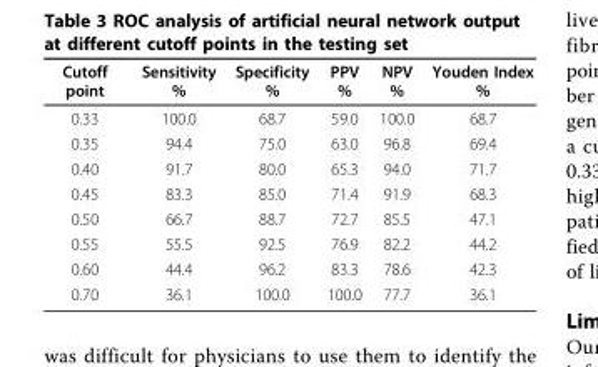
<table><thead><tr><td>Cutoff point</td><td>Sensitivity %</td><td>Specificity %</td><td>PPV %</td><td>NPV %</td><td>Youden Index %</td></tr></thead><tbody><tr><td>0.33</td><td>100.0</td><td>68.7</td><td>59.0</td><td>100.0</td><td>68.7</td></tr><tr><td>0.35</td><td>94.4</td><td>75.0</td><td>63.0</td><td>96.8</td><td>69.4</td></tr><tr><td>0.40</td><td>91.7</td><td>80.0</td><td>65.3</td><td>94.0</td><td>71.7</td></tr><tr><td>0.45</td><td>83.3</td><td>85.0</td><td>71.4</td><td>91.9</td><td>68.3</td></tr><tr><td>0.50</td><td>66.7</td><td>88.7</td><td>72.7</td><td>85.5</td><td>47.1</td></tr><tr><td>0.55</td><td>55.5</td><td>92.5</td><td>76.9</td><td>82.2</td><td>44.2</td></tr><tr><td>0.60</td><td>44.4</td><td>96.2</td><td>83.3</td><td>78.6</td><td>42.3</td></tr><tr><td>0.70</td><td>36.1</td><td>100.0</td><td>100.0</td><td>77.7</td><td>36.1</td></tr></tbody></table>